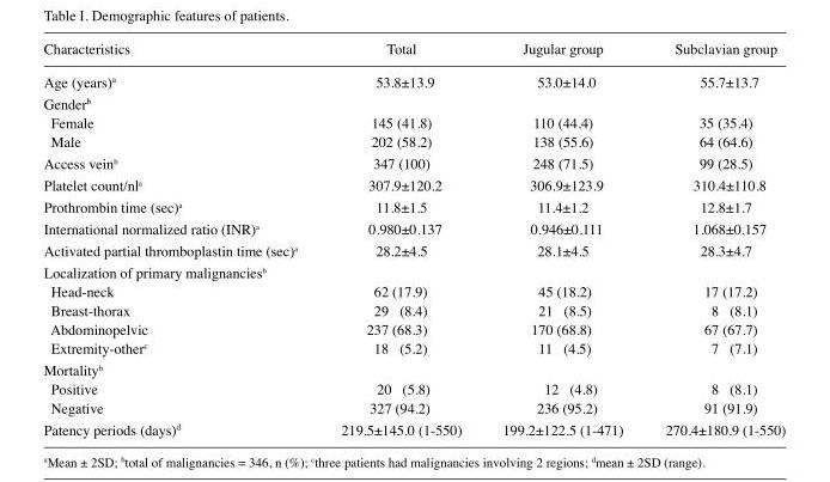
<table><thead><tr><td>Characteristics</td><td>Total</td><td>Jugular group</td><td>Subclavian group</td></tr></thead><tbody><tr><td>Age (years)<sup>a</sup></td><td>53.8±13.9</td><td>53.0±14.0</td><td>55.7±13.7</td></tr><tr><td colspan="4">Gender<sup>b</sup></td></tr><tr><td>Female</td><td>145 (41.8)</td><td>110 (44.4)</td><td>35 (35.4)</td></tr><tr><td>Male</td><td>202 (58.2)</td><td>138 (55.6)</td><td>64 (64.6)</td></tr><tr><td>Access vein<sup>b</sup></td><td>347 (100)</td><td>248 (71.5)</td><td>99 (28.5)</td></tr><tr><td>Platelet count/nl<sup>a</sup></td><td>307.9±120.2</td><td>306.9±123.9</td><td>310.4±110.8</td></tr><tr><td>Prothrombin time (sec)<sup>a</sup></td><td>11.8±1.5</td><td>11.4±1.2</td><td>12.8±1.7</td></tr><tr><td>International normalized ratio (INR)<sup>a</sup></td><td>0.980±0.137</td><td>0.946±0.111</td><td>1.068±0.157</td></tr><tr><td>Activated partial thromboplastin time (sec)<sup>a</sup></td><td>28.2±4.5</td><td>28.1±4.5</td><td>28.3±4.7</td></tr><tr><td colspan="4">Localization of primary malignancies<sup>b</sup></td></tr><tr><td>Head-neck</td><td>62 (17.9)</td><td>45 (18.2)</td><td>17 (17.2)</td></tr><tr><td>Breast-thorax</td><td>29 (8.4)</td><td>21 (8.5)</td><td>8 (8.1)</td></tr><tr><td>Abdominopelvic</td><td>237 (68.3)</td><td>170 (68.8)</td><td>67 (67.7)</td></tr><tr><td>Extremity-other<sup>c</sup></td><td>18 (5.2)</td><td>11 (4.5)</td><td>7 (7.1)</td></tr><tr><td colspan="4">Mortality<sup>b</sup></td></tr><tr><td>Positive</td><td>20 (5.8)</td><td>12 (4.8)</td><td>8 (8.1)</td></tr><tr><td>Negative</td><td>327 (94.2)</td><td>236 (95.2)</td><td>91 (91.9)</td></tr><tr><td>Patency periods (days)<sup>d</sup></td><td>219.5±145.0 (1-550)</td><td>199.2±122.5 (1-471)</td><td>270.4±180.9 (1-550)</td></tr></tbody></table>